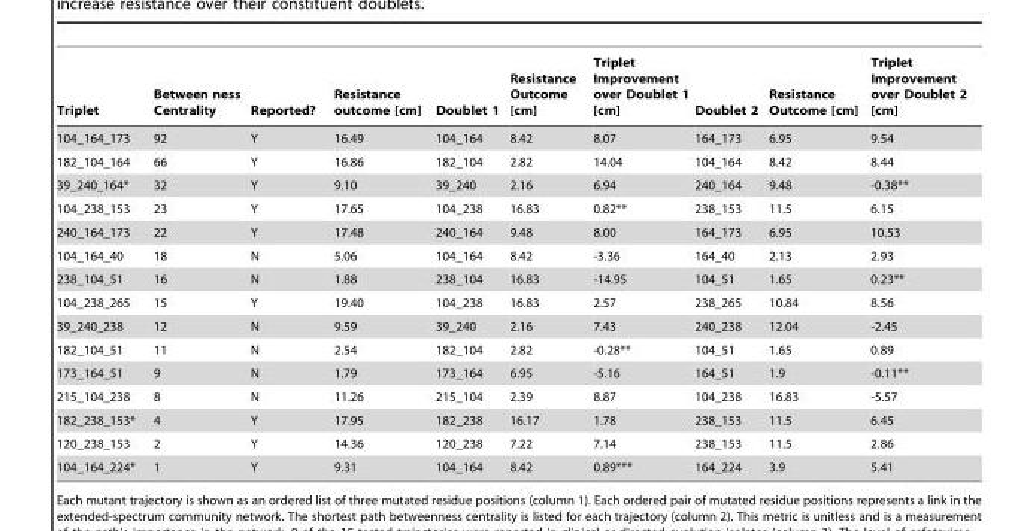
<table><thead><tr><td>Triplet</td><td>Between ness Centrality</td><td>Reported?</td><td>Resistance outcome [cm]</td><td>Doublet 1</td><td>Resistance Outcome [cm]</td><td>Triplet Improvement over Doublet 1 [cm]</td><td>Doublet 2</td><td>Resistance Outcome [cm]</td><td>Triplet Improvement over Doublet 2 [cm]</td></tr></thead><tbody><tr><td>104_164_173</td><td>92</td><td>Y</td><td>16.49</td><td>104_164</td><td>8.42</td><td>8.07</td><td>164_173</td><td>6.95</td><td>9.54</td></tr><tr><td>182_104_164</td><td>66</td><td>Y</td><td>16.86</td><td>182_104</td><td>2.82</td><td>14.04</td><td>104_164</td><td>8.42</td><td>8.44</td></tr><tr><td>39_240_164*</td><td>32</td><td>Y</td><td>9.10</td><td>39_240</td><td>2.16</td><td>6.94</td><td>240_164</td><td>9.48</td><td>-0.38**</td></tr><tr><td>104_238_153</td><td>23</td><td>Y</td><td>17.65</td><td>104_238</td><td>16.83</td><td>0.82**</td><td>238_153</td><td>11.5</td><td>6.15</td></tr><tr><td>240_164_173</td><td>22</td><td>Y</td><td>17.48</td><td>240_164</td><td>9.48</td><td>8.00</td><td>164_173</td><td>6.95</td><td>10.53</td></tr><tr><td>104_164_40</td><td>18</td><td>N</td><td>5.06</td><td>104_164</td><td>8.42</td><td>-3.36</td><td>164_40</td><td>2.13</td><td>2.93</td></tr><tr><td>238_104_51</td><td>16</td><td>N</td><td>1.88</td><td>238_104</td><td>16.83</td><td>-14.95</td><td>104_51</td><td>1.65</td><td>0.23**</td></tr><tr><td>104_238_265</td><td>15</td><td>Y</td><td>19.40</td><td>104_238</td><td>16.83</td><td>2.57</td><td>238_265</td><td>10.84</td><td>8.56</td></tr><tr><td>39_240_238</td><td>12</td><td>N</td><td>9.59</td><td>39_240</td><td>2.16</td><td>7.43</td><td>240_238</td><td>12.04</td><td>-2.45</td></tr><tr><td>182_104_51</td><td>11</td><td>N</td><td>2.54</td><td>182_104</td><td>2.82</td><td>-0.28**</td><td>104_51</td><td>1.65</td><td>0.89</td></tr><tr><td>173_164_51</td><td>9</td><td>N</td><td>1.79</td><td>173_164</td><td>6.95</td><td>-5.16</td><td>164_51</td><td>1.9</td><td>-0.11**</td></tr><tr><td>215_104_238</td><td>8</td><td>N</td><td>11.26</td><td>215_104</td><td>2.39</td><td>8.87</td><td>104_238</td><td>16.83</td><td>-5.57</td></tr><tr><td>182_238_153*</td><td>4</td><td>Y</td><td>17.95</td><td>182_238</td><td>16.17</td><td>1.78</td><td>238_153</td><td>11.5</td><td>6.45</td></tr><tr><td>120_238_153</td><td>2</td><td>Y</td><td>14.36</td><td>120_238</td><td>7.22</td><td>7.14</td><td>238_153</td><td>11.5</td><td>2.86</td></tr><tr><td>104_164_224*</td><td>1</td><td>Y</td><td>9.31</td><td>104_164</td><td>8.42</td><td>0.89***</td><td>164_224</td><td>3.9</td><td>5.41</td></tr></tbody></table>